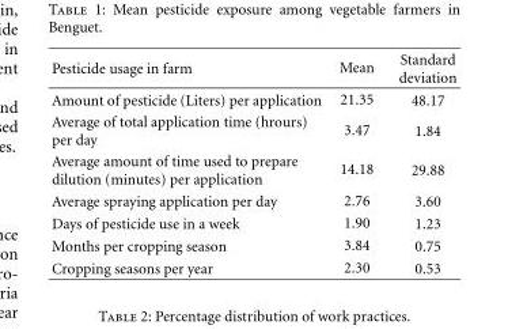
<table><thead><tr><td>Pesticide usage in farm</td><td>Mean</td><td>Standard deviation</td></tr></thead><tbody><tr><td>Amount of pesticide (Liters) per application</td><td>21.35</td><td>48.17</td></tr><tr><td>Average of total application time (hrours) per day</td><td>3.47</td><td>1.84</td></tr><tr><td>Average amount of time used to prepare dilution (minutes) per application</td><td>14.18</td><td>29.88</td></tr><tr><td>Average spraying application per day</td><td>2.76</td><td>3.60</td></tr><tr><td>Days of pesticide use in a week</td><td>1.90</td><td>1.23</td></tr><tr><td>Months per cropping season</td><td>3.84</td><td>0.75</td></tr><tr><td>Cropping seasons per year</td><td>2.30</td><td>0.53</td></tr></tbody></table>